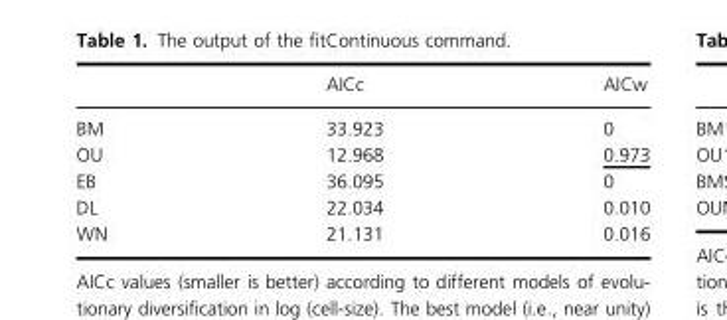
<table><thead><tr><td></td><td>AICc</td><td>AICw</td></tr></thead><tbody><tr><td>BM</td><td>33.923</td><td>0</td></tr><tr><td>OU</td><td>12.968</td><td>0.973</td></tr><tr><td>EB</td><td>36.095</td><td>0</td></tr><tr><td>DL</td><td>22.034</td><td>0.010</td></tr><tr><td>WN</td><td>21.131</td><td>0.016</td></tr></tbody></table>